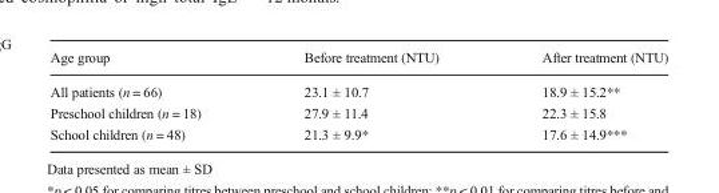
<table><thead><tr><td>Age group</td><td>Before treatment (NTU)</td><td>After treatment (NTU)</td></tr></thead><tbody><tr><td>All patients (n = 66)</td><td>23.1 ± 10.7</td><td>18.9 ± 15.2**</td></tr><tr><td>Preschool children (n = 18)</td><td>27.9 ± 11.4</td><td>22.3 ± 15.8</td></tr><tr><td>School children (n = 48)</td><td>21.3 ± 9.9*</td><td>17.6 ± 14.9***</td></tr></tbody></table>